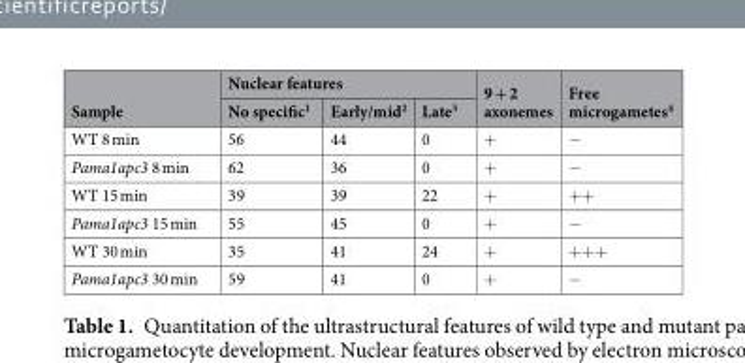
<table><thead><tr><td rowspan="2">Sample</td><td colspan="3">Nuclear features</td><td rowspan="2">9 + 2 axonemes</td><td rowspan="2">Free microgametes<sup>4</sup></td></tr><tr><td>No specific<sup>1</sup></td><td>Early/mid<sup>2</sup></td><td>Late<sup>3</sup></td></tr></thead><tbody><tr><td>WT 8 min</td><td>56</td><td>44</td><td>0</td><td>+</td><td>−</td></tr><tr><td>Pama1apc3 8 min</td><td>62</td><td>36</td><td>0</td><td>+</td><td>−</td></tr><tr><td>WT 15 min</td><td>39</td><td>39</td><td>22</td><td>+</td><td>++</td></tr><tr><td>Pama1apc3 15 min</td><td>55</td><td>45</td><td>0</td><td>+</td><td>−</td></tr><tr><td>WT 30 min</td><td>35</td><td>41</td><td>24</td><td>+</td><td>+++</td></tr><tr><td>Pama1apc3 30 min</td><td>59</td><td>41</td><td>0</td><td>+</td><td>−</td></tr></tbody></table>